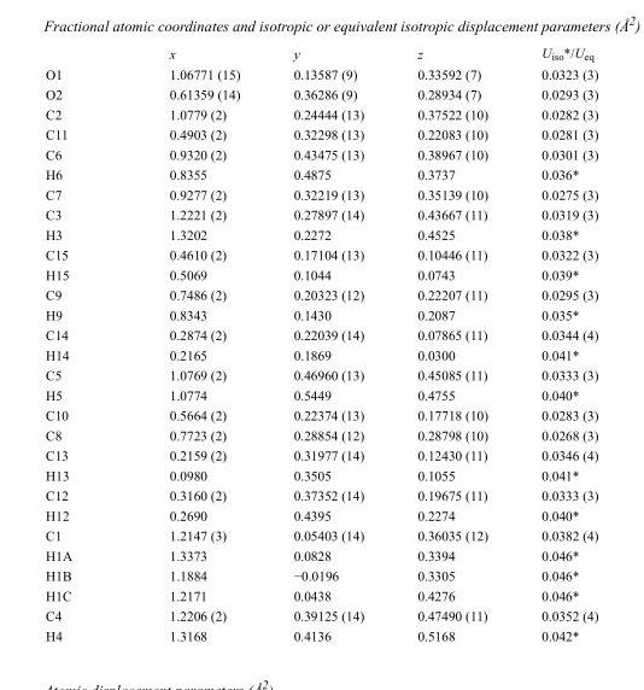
<table><thead><tr><td></td><td>x</td><td>y</td><td>z</td><td>U<sub>iso</sub>*/U<sub>eq</sub></td></tr></thead><tbody><tr><td>O1</td><td>1.06771 (15)</td><td>0.13587 (9)</td><td>0.33592 (7)</td><td>0.0323 (3)</td></tr><tr><td>O2</td><td>0.61359 (14)</td><td>0.36286 (9)</td><td>0.28934 (7)</td><td>0.0293 (3)</td></tr><tr><td>C2</td><td>1.0779 (2)</td><td>0.24444 (13)</td><td>0.37522 (10)</td><td>0.0282 (3)</td></tr><tr><td>C11</td><td>0.4903 (2)</td><td>0.32298 (13)</td><td>0.22083 (10)</td><td>0.0281 (3)</td></tr><tr><td>C6</td><td>0.9320 (2)</td><td>0.43475 (13)</td><td>0.38967 (10)</td><td>0.0301 (3)</td></tr><tr><td>H6</td><td>0.8355</td><td>0.4875</td><td>0.3737</td><td>0.036*</td></tr><tr><td>C7</td><td>0.9277 (2)</td><td>0.32219 (13)</td><td>0.35139 (10)</td><td>0.0275 (3)</td></tr><tr><td>C3</td><td>1.2221 (2)</td><td>0.27897 (14)</td><td>0.43667 (11)</td><td>0.0319 (3)</td></tr><tr><td>H3</td><td>1.3202</td><td>0.2272</td><td>0.4525</td><td>0.038*</td></tr><tr><td>C15</td><td>0.4610 (2)</td><td>0.17104 (13)</td><td>0.10446 (11)</td><td>0.0322 (3)</td></tr><tr><td>H15</td><td>0.5069</td><td>0.1044</td><td>0.0743</td><td>0.039*</td></tr><tr><td>C9</td><td>0.7486 (2)</td><td>0.20323 (12)</td><td>0.22207 (11)</td><td>0.0295 (3)</td></tr><tr><td>H9</td><td>0.8343</td><td>0.1430</td><td>0.2087</td><td>0.035*</td></tr><tr><td>C14</td><td>0.2874 (2)</td><td>0.22039 (14)</td><td>0.07865 (11)</td><td>0.0344 (4)</td></tr><tr><td>H14</td><td>0.2165</td><td>0.1869</td><td>0.0300</td><td>0.041*</td></tr><tr><td>C5</td><td>1.0769 (2)</td><td>0.46960 (13)</td><td>0.45085 (11)</td><td>0.0333 (3)</td></tr><tr><td>H5</td><td>1.0774</td><td>0.5449</td><td>0.4755</td><td>0.040*</td></tr><tr><td>C10</td><td>0.5664 (2)</td><td>0.22374 (13)</td><td>0.17718 (10)</td><td>0.0283 (3)</td></tr><tr><td>C8</td><td>0.7723 (2)</td><td>0.28854 (12)</td><td>0.28798 (10)</td><td>0.0268 (3)</td></tr><tr><td>C13</td><td>0.2159 (2)</td><td>0.31977 (14)</td><td>0.12430 (11)</td><td>0.0346 (4)</td></tr><tr><td>H13</td><td>0.0980</td><td>0.3505</td><td>0.1055</td><td>0.041*</td></tr><tr><td>C12</td><td>0.3160 (2)</td><td>0.37352 (14)</td><td>0.19675 (11)</td><td>0.0333 (3)</td></tr><tr><td>H12</td><td>0.2690</td><td>0.4395</td><td>0.2274</td><td>0.040*</td></tr><tr><td>C1</td><td>1.2147 (3)</td><td>0.05403 (14)</td><td>0.36035 (12)</td><td>0.0382 (4)</td></tr><tr><td>H1A</td><td>1.3373</td><td>0.0828</td><td>0.3394</td><td>0.046*</td></tr><tr><td>H1B</td><td>1.1884</td><td>−0.0196</td><td>0.3305</td><td>0.046*</td></tr><tr><td>H1C</td><td>1.2171</td><td>0.0438</td><td>0.4276</td><td>0.046*</td></tr><tr><td>C4</td><td>1.2206 (2)</td><td>0.39125 (14)</td><td>0.47490 (11)</td><td>0.0352 (4)</td></tr><tr><td>H4</td><td>1.3168</td><td>0.4136</td><td>0.5168</td><td>0.042*</td></tr></tbody></table>